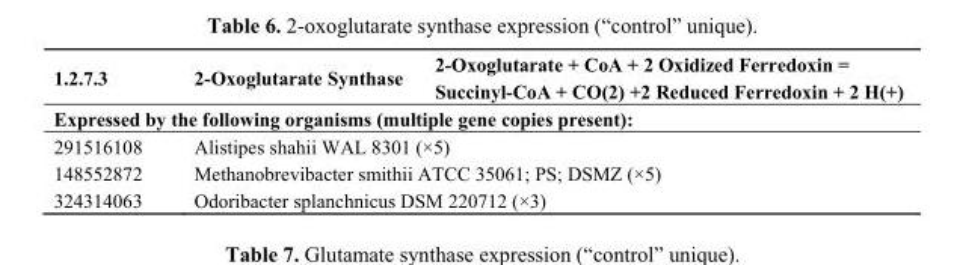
<table><thead><tr><td>1.2.7.3</td><td>2-Oxoglutarate Synthase</td><td>2-Oxoglutarate + CoA + 2 Oxidized Ferredoxin = Succinyl-CoA + CO(2) +2 Reduced Ferredoxin + 2 H(+)</td></tr></thead><tbody><tr><td colspan="3">Expressed by the following organisms (multiple gene copies present):</td></tr><tr><td>291516108</td><td colspan="2">Alistipes shahii WAL 8301 (×5)</td></tr><tr><td>148552872</td><td colspan="2">Methanobrevibacter smithii ATCC 35061; PS; DSMZ (×5)</td></tr><tr><td>324314063</td><td colspan="2">Odoribacter splanchnicus DSM 220712 (×3)</td></tr></tbody></table>